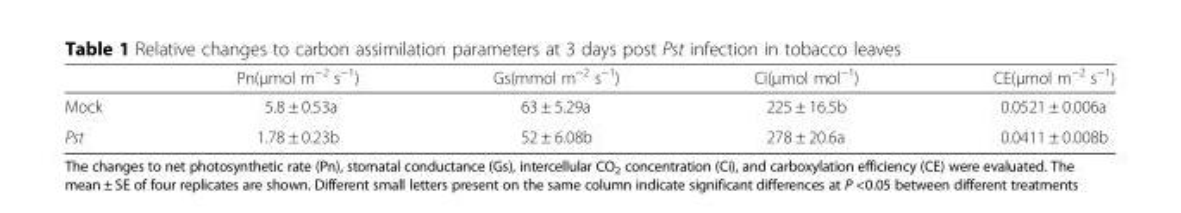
<table><thead><tr><td></td><td>Pn(μmol m<sup>−2</sup> s<sup>−1</sup>)</td><td>Gs(mmol m<sup>−2</sup> s<sup>−1</sup>)</td><td>Ci(μmol mol<sup>−1</sup>)</td><td>CE(μmol m<sup>−2</sup> s<sup>−1</sup>)</td></tr></thead><tbody><tr><td>Mock</td><td>5.8 ± 0.53a</td><td>63 ± 5.29a</td><td>225 ± 16.5b</td><td>0.0521 ± 0.006a</td></tr><tr><td>Pst</td><td>1.78 ± 0.23b</td><td>52 ± 6.08b</td><td>278 ± 20.6a</td><td>0.0411 ± 0.008b</td></tr></tbody></table>